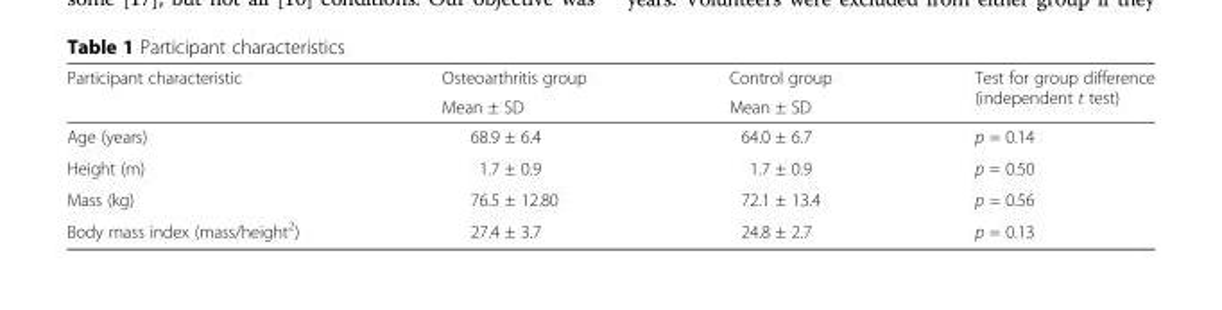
<table><thead><tr><td rowspan="2">Participant characteristic</td><td rowspan="2">Osteoarthritis group Mean ± SD</td><td rowspan="2">Control group Mean ± SD</td><td rowspan="2">Test for group difference (independent t test)</td></tr><tr></tr></thead><tbody><tr><td>Age (years)</td><td>68.9 ± 6.4</td><td>64.0 ± 6.7</td><td>p = 0.14</td></tr><tr><td>Height (m)</td><td>1.7 ± 0.9</td><td>1.7 ± 0.9</td><td>p = 0.50</td></tr><tr><td>Mass (kg)</td><td>76.5 ± 12.80</td><td>72.1 ± 13.4</td><td>p = 0.56</td></tr><tr><td>Body mass index (mass/height<sup>2</sup>)</td><td>27.4 ± 3.7</td><td>24.8 ± 2.7</td><td>p = 0.13</td></tr></tbody></table>